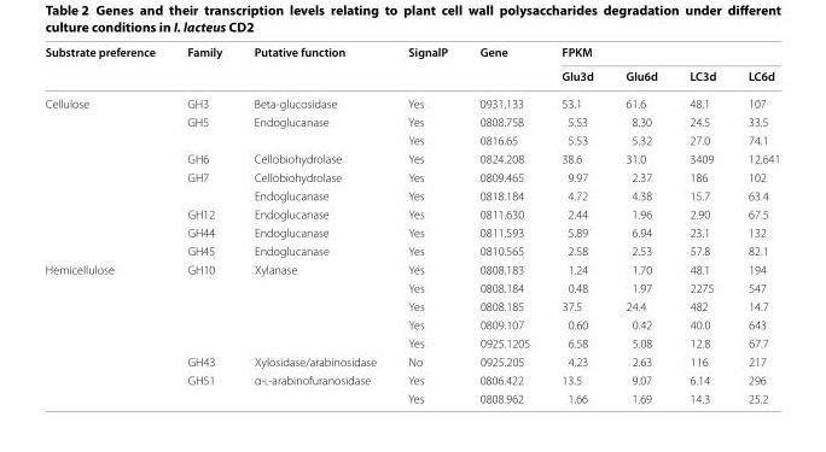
<table><thead><tr><td rowspan="2">Substrate preference</td><td rowspan="2">Family</td><td rowspan="2">Putative function</td><td rowspan="2">SignalP</td><td rowspan="2">Gene</td><td colspan="4">FPKM</td></tr><tr><td>Glu3d</td><td>Glu6d</td><td>LC3d</td><td>LC6d</td></tr></thead><tbody><tr><td rowspan="9">Cellulose</td><td>GH3</td><td>Beta-glucosidase</td><td>Yes</td><td>0931.133</td><td>53.1</td><td>61.6</td><td>48.1</td><td>107</td></tr><tr><td>GH5</td><td>Endoglucanase</td><td>Yes</td><td>0808.758</td><td>5.53</td><td>8.30</td><td>24.5</td><td>33.5</td></tr><tr><td></td><td></td><td>Yes</td><td>0816.65</td><td>5.53</td><td>5.32</td><td>27.0</td><td>74.1</td></tr><tr><td>GH6</td><td>Cellobiohydrolase</td><td>Yes</td><td>0824.208</td><td>38.6</td><td>31.0</td><td>3409</td><td>12,641</td></tr><tr><td>GH7</td><td>Cellobiohydrolase</td><td>Yes</td><td>0809.465</td><td>9.97</td><td>2.37</td><td>186</td><td>102</td></tr><tr><td></td><td>Endoglucanase</td><td>Yes</td><td>0818.184</td><td>4.72</td><td>4.38</td><td>15.7</td><td>63.4</td></tr><tr><td>GH12</td><td>Endoglucanase</td><td>Yes</td><td>0811.630</td><td>2.44</td><td>1.96</td><td>2.90</td><td>67.5</td></tr><tr><td>GH44</td><td>Endoglucanase</td><td>Yes</td><td>0811.593</td><td>5.89</td><td>6.94</td><td>23.1</td><td>132</td></tr><tr><td>GH45</td><td>Endoglucanase</td><td>Yes</td><td>0810.565</td><td>2.58</td><td>2.53</td><td>57.8</td><td>82.1</td></tr><tr><td rowspan="8">Hemicellulose</td><td>GH10</td><td>Xylanase</td><td>Yes</td><td>0808.183</td><td>1.24</td><td>1.70</td><td>48.1</td><td>194</td></tr><tr><td></td><td></td><td>Yes</td><td>0808.184</td><td>0.48</td><td>1.97</td><td>2275</td><td>547</td></tr><tr><td></td><td></td><td>Yes</td><td>0808.185</td><td>37.5</td><td>24.4</td><td>482</td><td>14.7</td></tr><tr><td></td><td></td><td>Yes</td><td>0809.107</td><td>0.60</td><td>0.42</td><td>40.0</td><td>643</td></tr><tr><td></td><td></td><td>Yes</td><td>0925.1205</td><td>6.58</td><td>5.08</td><td>12.8</td><td>67.7</td></tr><tr><td>GH43</td><td>Xylosidase/arabinosidase</td><td>No</td><td>0925.205</td><td>4.23</td><td>2.63</td><td>116</td><td>217</td></tr><tr><td>GH51</td><td>α-l-arabinofuranosidase</td><td>Yes</td><td>0806.422</td><td>13.5</td><td>9.07</td><td>6.14</td><td>296</td></tr><tr><td></td><td></td><td>Yes</td><td>0808.962</td><td>1.66</td><td>1.69</td><td>14.3</td><td>25.2</td></tr></tbody></table>